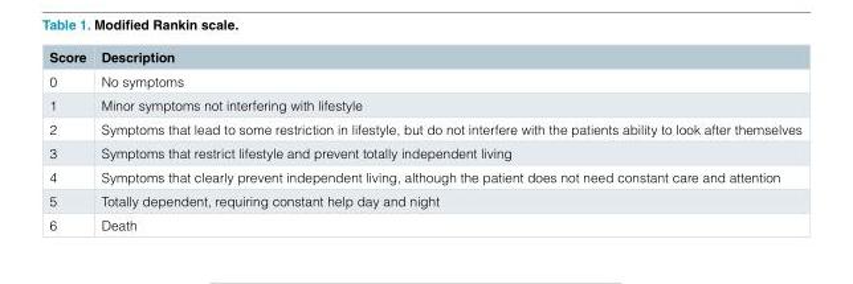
<table><thead><tr><td>Score</td><td>Description</td></tr></thead><tbody><tr><td>0</td><td>No symptoms</td></tr><tr><td>1</td><td>Minor symptoms not interfering with lifestyle</td></tr><tr><td>2</td><td>Symptoms that lead to some restriction in lifestyle, but do not interfere with the patients ability to look after themselves</td></tr><tr><td>3</td><td>Symptoms that restrict lifestyle and prevent totally independent living</td></tr><tr><td>4</td><td>Symptoms that clearly prevent independent living, although the patient does not need constant care and attention</td></tr><tr><td>5</td><td>Totally dependent, requiring constant help day and night</td></tr><tr><td>6</td><td>Death</td></tr></tbody></table>